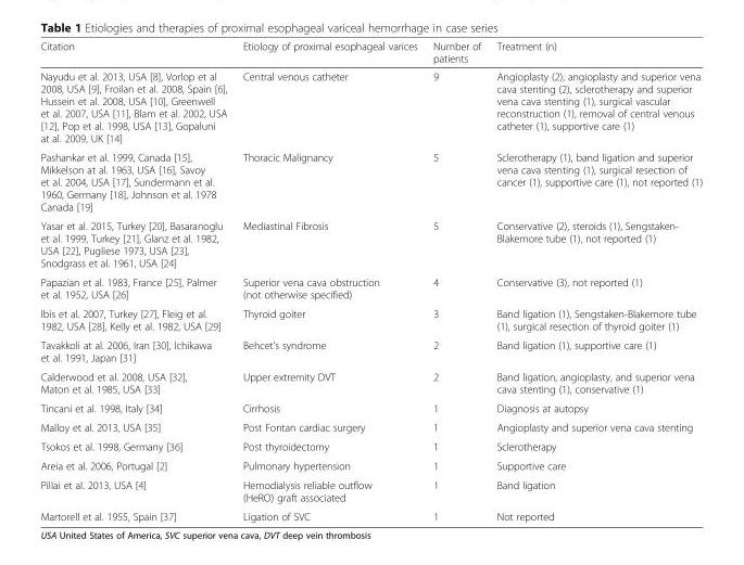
<table><thead><tr><td>Citation</td><td>Etiology of proximal esophageal varices</td><td>Number of patients</td><td>Treatment (n)</td></tr></thead><tbody><tr><td>Nayudu et al. 2013, USA [8], Vorlop et al 2008, USA [9], Froilan et al. 2008, Spain [6], Hussein et al. 2008, USA [10], Greenwell et al. 2007, USA [11], Blam et al. 2002, USA [12], Pop et al. 1998, USA [13], Gopaluni at al. 2009, UK [14]</td><td>Central venous catheter</td><td>9</td><td>Angioplasty (2), angioplasty and superior vena cava stenting (2), sclerotherapy and superior vena cava stenting (1), surgical vascular reconstruction (1), removal of central venous catheter (1), supportive care (1)</td></tr><tr><td>Pashankar et al. 1999, Canada [15], Mikkelson at al. 1963, USA [16], Savoy et al. 2004, USA [17], Sundermann et al. 1960, Germany [18], Johnson et al. 1978 Canada [19]</td><td>Thoracic Malignancy</td><td>5</td><td>Sclerotherapy (1), band ligation and superior vena cava stenting (1), surgical resection of cancer (1), supportive care (1), not reported (1)</td></tr><tr><td>Yasar et al. 2015, Turkey [20], Basaranoglu et al. 1999, Turkey [21], Glanz et al. 1982, USA [22], Pugliese 1973, USA [23], Snodgrass et al. 1961, USA [24]</td><td>Mediastinal Fibrosis</td><td>5</td><td>Conservative (2), steroids (1), Sengstaken- Blakemore tube (1), not reported (1)</td></tr><tr><td>Papazian et al. 1983, France [25], Palmer et al. 1952, USA [26]</td><td>Superior vena cava obstruction (not otherwise specified)</td><td>4</td><td>Conservative (3), not reported (1)</td></tr><tr><td>Ibis et al. 2007, Turkey [27], Fleig et al. 1982, USA [28], Kelly et al. 1982, USA [29]</td><td>Thyroid goiter</td><td>3</td><td>Band ligation (1), Sengstaken-Blakemore tube (1), surgical resection of thyroid goiter (1)</td></tr><tr><td>Tavakkoli at al. 2006, Iran [30], Ichikawa et al. 1991, Japan [31]</td><td>Behcet’s syndrome</td><td>2</td><td>Band ligation (1), supportive care (1)</td></tr><tr><td>Calderwood et al. 2008, USA [32], Maton et al. 1985, USA [33]</td><td>Upper extremity DVT</td><td>2</td><td>Band ligation, angioplasty, and superior vena cava stenting (1), conservative (1)</td></tr><tr><td>Tincani et al. 1998, Italy [34]</td><td>Cirrhosis</td><td>1</td><td>Diagnosis at autopsy</td></tr><tr><td>Malloy et al. 2013, USA [35]</td><td>Post Fontan cardiac surgery</td><td>1</td><td>Angioplasty and superior vena cava stenting</td></tr><tr><td>Tsokos et al. 1998, Germany [36]</td><td>Post thyroidectomy</td><td>1</td><td>Sclerotherapy</td></tr><tr><td>Areia et al. 2006, Portugal [2]</td><td>Pulmonary hypertension</td><td>1</td><td>Supportive care</td></tr><tr><td>Pillai et al. 2013, USA [4]</td><td>Hemodialysis reliable outflow (HeRO) graft associated</td><td>1</td><td>Band ligation</td></tr><tr><td>Martorell et al. 1955, Spain [37]</td><td>Ligation of SVC</td><td>1</td><td>Not reported</td></tr></tbody></table>